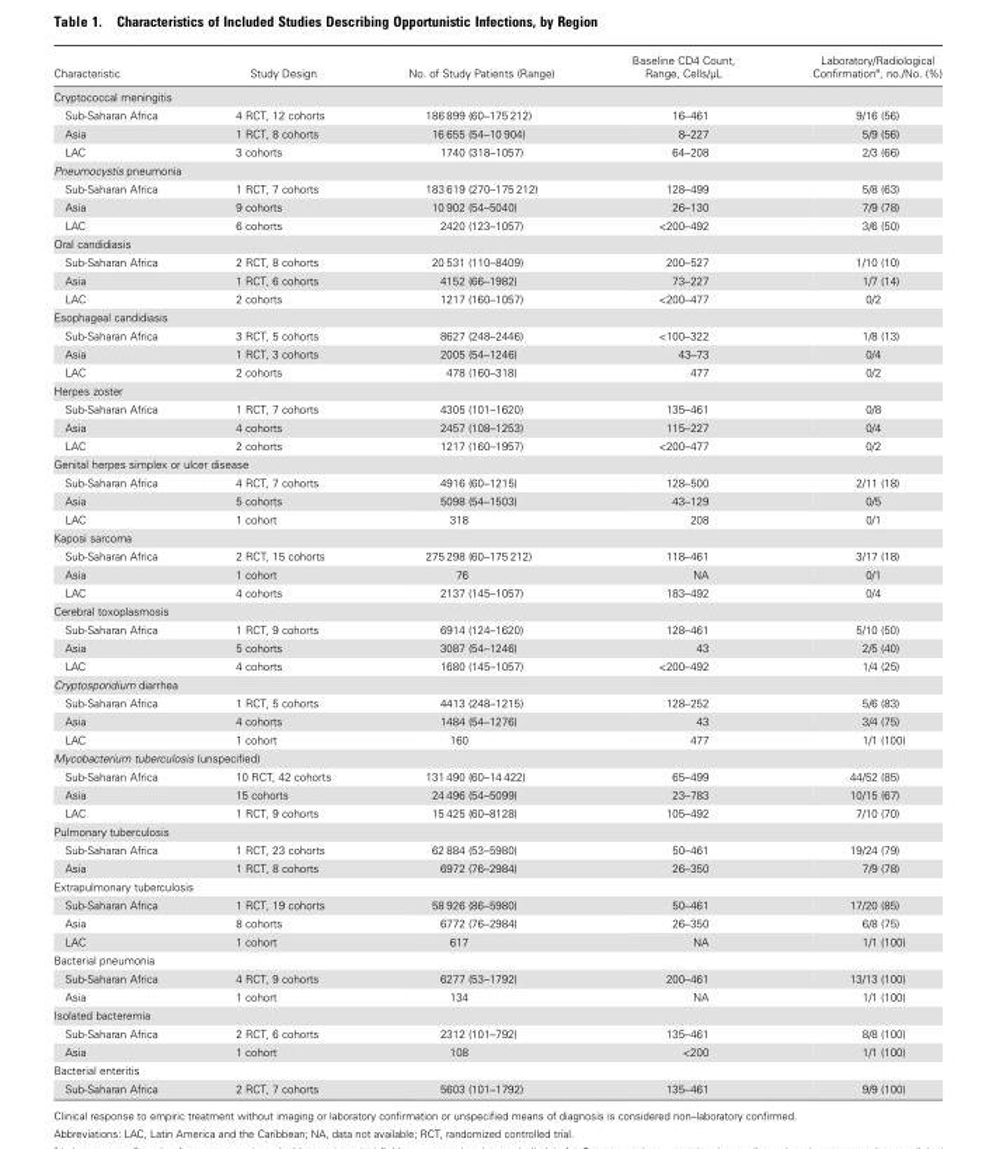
<table><thead><tr><td>Characteristic</td><td>Study Design</td><td>No. of Study Patients (Range)</td><td>Baseline CD4 Count, Range, Cells/µL</td><td>Laboratory/Radiological Confirmation<sup>a</sup>, no./No. (%)</td></tr></thead><tbody><tr><td colspan="5">Cryptococcal meningitis</td></tr><tr><td>Sub-Saharan Africa</td><td>4 RCT, 12 cohorts</td><td>186 899 (60–175 212)</td><td>16–461</td><td>9/16 (56)</td></tr><tr><td>Asia</td><td>1 RCT, 8 cohorts</td><td>16 655 (54–10 904)</td><td>8–227</td><td>5/9 (56)</td></tr><tr><td>LAC</td><td>3 cohorts</td><td>1740 (318–1057)</td><td>64–208</td><td>2/3 (66)</td></tr><tr><td colspan="5">Pneumocystis pneumonia</td></tr><tr><td>Sub-Saharan Africa</td><td>1 RCT, 7 cohorts</td><td>183 619 (270–175 212)</td><td>128–499</td><td>5/8 (63)</td></tr><tr><td>Asia</td><td>9 cohorts</td><td>10 902 (54–5040)</td><td>26–130</td><td>7/9 (78)</td></tr><tr><td>LAC</td><td>6 cohorts</td><td>2420 (123–1057)</td><td>&lt;200–492</td><td>3/6 (50)</td></tr><tr><td colspan="5">Oral candidiasis</td></tr><tr><td>Sub-Saharan Africa</td><td>2 RCT, 8 cohorts</td><td>20 531 (110–8409)</td><td>200–527</td><td>1/10 (10)</td></tr><tr><td>Asia</td><td>1 RCT, 6 cohorts</td><td>4152 (66–1982)</td><td>73–227</td><td>1/7 (14)</td></tr><tr><td>LAC</td><td>2 cohorts</td><td>1217 (160–1057)</td><td>&lt;200–477</td><td>0/2</td></tr><tr><td colspan="5">Esophageal candidiasis</td></tr><tr><td>Sub-Saharan Africa</td><td>3 RCT, 5 cohorts</td><td>8627 (248–2446)</td><td>&lt;100–322</td><td>1/8 (13)</td></tr><tr><td>Asia</td><td>1 RCT, 3 cohorts</td><td>2005 (54–1246)</td><td>43–73</td><td>0/4</td></tr><tr><td>LAC</td><td>2 cohorts</td><td>478 (160–318)</td><td>477</td><td>0/2</td></tr><tr><td colspan="5">Herpes zoster</td></tr><tr><td>Sub-Saharan Africa</td><td>1 RCT, 7 cohorts</td><td>4305 (101–1620)</td><td>135–461</td><td>0/8</td></tr><tr><td>Asia</td><td>4 cohorts</td><td>2457 (108–1253)</td><td>115–227</td><td>0/4</td></tr><tr><td>LAC</td><td>2 cohorts</td><td>1217 (160–1957)</td><td>&lt;200–477</td><td>0/2</td></tr><tr><td colspan="5">Genital herpes simplex or ulcer disease</td></tr><tr><td>Sub-Saharan Africa</td><td>4 RCT, 7 cohorts</td><td>4916 (60–1215)</td><td>128–500</td><td>2/11 (18)</td></tr><tr><td>Asia</td><td>5 cohorts</td><td>5098 (54–1503)</td><td>43–129</td><td>0/5</td></tr><tr><td>LAC</td><td>1 cohort</td><td>318</td><td>208</td><td>0/1</td></tr><tr><td colspan="5">Kaposi sarcoma</td></tr><tr><td>Sub-Saharan Africa</td><td>2 RCT, 15 cohorts</td><td>275 298 (60–175 212)</td><td>118–461</td><td>3/17 (18)</td></tr><tr><td>Asia</td><td>1 cohort</td><td>76</td><td>NA</td><td>0/1</td></tr><tr><td>LAC</td><td>4 cohorts</td><td>2137 (145–1057)</td><td>183–492</td><td>0/4</td></tr><tr><td colspan="5">Cerebral toxoplasmosis</td></tr><tr><td>Sub-Saharan Africa</td><td>1 RCT, 9 cohorts</td><td>6914 (124–1620)</td><td>128–461</td><td>5/10 (50)</td></tr><tr><td>Asia</td><td>5 cohorts</td><td>3087 (54–1246)</td><td>43</td><td>2/5 (40)</td></tr><tr><td>LAC</td><td>4 cohorts</td><td>1680 (145–1057)</td><td>&lt;200–492</td><td>1/4 (25)</td></tr><tr><td colspan="5">Cryptosporidium diarrhea</td></tr><tr><td>Sub-Saharan Africa</td><td>1 RCT, 5 cohorts</td><td>4413 (248–1215)</td><td>128–252</td><td>5/6 (83)</td></tr><tr><td>Asia</td><td>4 cohorts</td><td>1484 (54–1276)</td><td>43</td><td>3/4 (75)</td></tr><tr><td>LAC</td><td>1 cohort</td><td>160</td><td>477</td><td>1/1 (100)</td></tr><tr><td colspan="5">Mycobacterium tuberculosis (unspecified)</td></tr><tr><td>Sub-Saharan Africa</td><td>10 RCT, 42 cohorts</td><td>131 490 (60–14 422)</td><td>65–499</td><td>44/52 (85)</td></tr><tr><td>Asia</td><td>15 cohorts</td><td>24 496 (54–5099)</td><td>23–783</td><td>10/15 (67)</td></tr><tr><td>LAC</td><td>1 RCT, 9 cohorts</td><td>15 425 (60–8128)</td><td>105–492</td><td>7/10 (70)</td></tr><tr><td colspan="5">Pulmonary tuberculosis</td></tr><tr><td>Sub-Saharan Africa</td><td>1 RCT, 23 cohorts</td><td>62 884 (53–5980)</td><td>50–461</td><td>19/24 (79)</td></tr><tr><td>Asia</td><td>1 RCT, 8 cohorts</td><td>6972 (76–2984)</td><td>26–350</td><td>7/9 (78)</td></tr><tr><td colspan="5">Extrapulmonary tuberculosis</td></tr><tr><td>Sub-Saharan Africa</td><td>1 RCT, 19 cohorts</td><td>58 926 (86–5980)</td><td>50–461</td><td>17/20 (85)</td></tr><tr><td>Asia</td><td>8 cohorts</td><td>6772 (76–2984)</td><td>26–350</td><td>6/8 (75)</td></tr><tr><td>LAC</td><td>1 cohort</td><td>617</td><td>NA</td><td>1/1 (100)</td></tr><tr><td colspan="5">Bacterial pneumonia</td></tr><tr><td>Sub-Saharan Africa</td><td>4 RCT, 9 cohorts</td><td>6277 (53–1792)</td><td>200–461</td><td>13/13 (100)</td></tr><tr><td>Asia</td><td>1 cohort</td><td>134</td><td>NA</td><td>1/1 (100)</td></tr><tr><td colspan="5">Isolated bacteremia</td></tr><tr><td>Sub-Saharan Africa</td><td>2 RCT, 6 cohorts</td><td>2312 (101–792)</td><td>135–461</td><td>8/8 (100)</td></tr><tr><td>Asia</td><td>1 cohort</td><td>108</td><td>&lt;200</td><td>1/1 (100)</td></tr><tr><td colspan="5">Bacterial enteritis</td></tr><tr><td>Sub-Saharan Africa</td><td>2 RCT, 7 cohorts</td><td>5603 (101–1792)</td><td>135–461</td><td>9/9 (100)</td></tr></tbody></table>